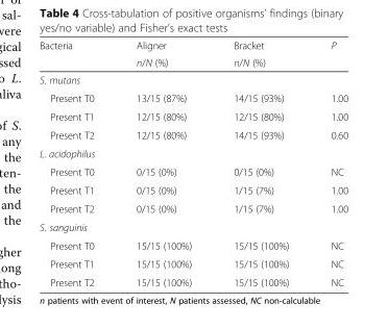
<table><thead><tr><td rowspan="2">Bacteria</td><td rowspan="2">Aligner n/N (%)</td><td rowspan="2">Bracket n/N (%)</td><td rowspan="2">P</td></tr><tr></tr></thead><tbody><tr><td colspan="4">S. mutans</td></tr><tr><td>Present T0</td><td>13/15 (87%)</td><td>14/15 (93%)</td><td>1.00</td></tr><tr><td>Present T1</td><td>12/15 (80%)</td><td>12/15 (80%)</td><td>1.00</td></tr><tr><td>Present T2</td><td>12/15 (80%)</td><td>14/15 (93%)</td><td>0.60</td></tr><tr><td colspan="4">L. acidophilus</td></tr><tr><td>Present T0</td><td>0/15 (0%)</td><td>0/15 (0%)</td><td>NC</td></tr><tr><td>Present T1</td><td>0/15 (0%)</td><td>1/15 (7%)</td><td>1.00</td></tr><tr><td>Present T2</td><td>0/15 (0%)</td><td>1/15 (7%)</td><td>1.00</td></tr><tr><td colspan="4">S. sanguinis</td></tr><tr><td>Present T0</td><td>15/15 (100%)</td><td>15/15 (100%)</td><td>NC</td></tr><tr><td>Present T1</td><td>15/15 (100%)</td><td>15/15 (100%)</td><td>NC</td></tr><tr><td>Present T2</td><td>15/15 (100%)</td><td>15/15 (100%)</td><td>NC</td></tr></tbody></table>